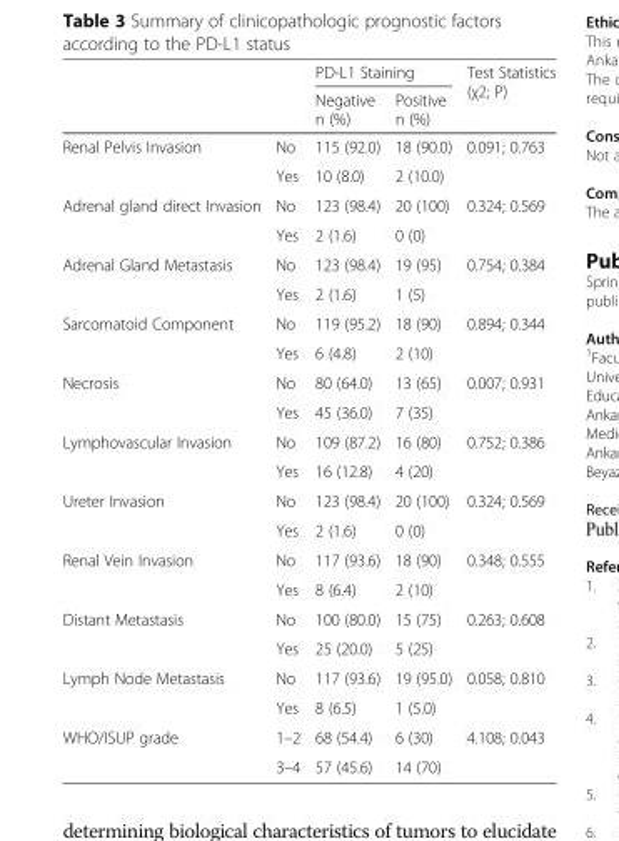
<table><thead><tr><td rowspan="2"></td><td rowspan="2"></td><td colspan="2">PD-L1 Staining</td><td rowspan="2">Test Statistics (χ2; P)</td></tr><tr><td>Negative n (%)</td><td>Positive n (%)</td></tr></thead><tbody><tr><td rowspan="2">Renal Pelvis Invasion</td><td>No</td><td>115 (92.0)</td><td>18 (90.0)</td><td rowspan="2">0.091; 0.763</td></tr><tr><td>Yes</td><td>10 (8.0)</td><td>2 (10.0)</td></tr><tr><td rowspan="2">Adrenal gland direct Invasion</td><td>No</td><td>123 (98.4)</td><td>20 (100)</td><td rowspan="2">0.324; 0.569</td></tr><tr><td>Yes</td><td>2 (1.6)</td><td>0 (0)</td></tr><tr><td rowspan="2">Adrenal Gland Metastasis</td><td>No</td><td>123 (98.4)</td><td>19 (95)</td><td rowspan="2">0.754; 0.384</td></tr><tr><td>Yes</td><td>2 (1.6)</td><td>1 (5)</td></tr><tr><td rowspan="2">Sarcomatoid Component</td><td>No</td><td>119 (95.2)</td><td>18 (90)</td><td rowspan="2">0.894; 0.344</td></tr><tr><td>Yes</td><td>6 (4.8)</td><td>2 (10)</td></tr><tr><td rowspan="2">Necrosis</td><td>No</td><td>80 (64.0)</td><td>13 (65)</td><td rowspan="2">0.007; 0.931</td></tr><tr><td>Yes</td><td>45 (36.0)</td><td>7 (35)</td></tr><tr><td rowspan="2">Lymphovascular Invasion</td><td>No</td><td>109 (87.2)</td><td>16 (80)</td><td rowspan="2">0.752; 0.386</td></tr><tr><td>Yes</td><td>16 (12.8)</td><td>4 (20)</td></tr><tr><td rowspan="2">Ureter Invasion</td><td>No</td><td>123 (98.4)</td><td>20 (100)</td><td rowspan="2">0.324; 0.569</td></tr><tr><td>Yes</td><td>2 (1.6)</td><td>0 (0)</td></tr><tr><td rowspan="2">Renal Vein Invasion</td><td>No</td><td>117 (93.6)</td><td>18 (90)</td><td rowspan="2">0.348; 0.555</td></tr><tr><td>Yes</td><td>8 (6.4)</td><td>2 (10)</td></tr><tr><td rowspan="2">Distant Metastasis</td><td>No</td><td>100 (80.0)</td><td>15 (75)</td><td rowspan="2">0.263; 0.608</td></tr><tr><td>Yes</td><td>25 (20.0)</td><td>5 (25)</td></tr><tr><td rowspan="2">Lymph Node Metastasis</td><td>No</td><td>117 (93.6)</td><td>19 (95.0)</td><td rowspan="2">0.058; 0.810</td></tr><tr><td>Yes</td><td>8 (6.5)</td><td>1 (5.0)</td></tr><tr><td rowspan="2">WHO/ISUP grade</td><td>1–2</td><td>68 (54.4)</td><td>6 (30)</td><td rowspan="2">4.108; 0.043</td></tr><tr><td>3–4</td><td>57 (45.6)</td><td>14 (70)</td></tr></tbody></table>